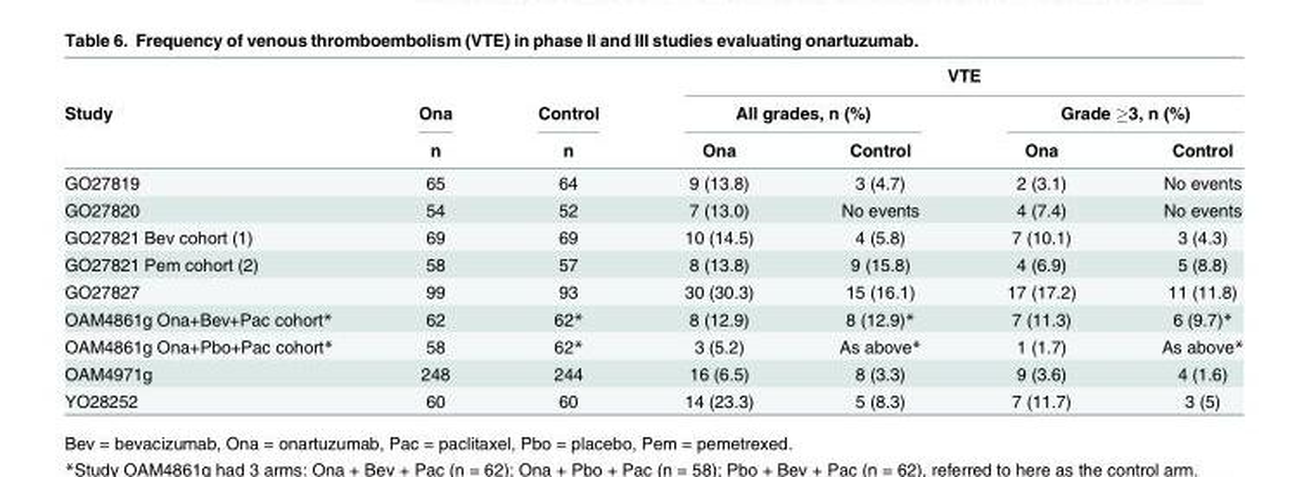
<table><thead><tr><td rowspan="3">Study</td><td rowspan="3">Ona n</td><td rowspan="3">Control n</td><td colspan="4">VTE</td></tr><tr><td colspan="2">All grades, n (%)</td><td colspan="2">Grade ≥3, n (%)</td></tr><tr><td>Ona</td><td>Control</td><td>Ona</td><td>Control</td></tr></thead><tbody><tr><td>GO27819</td><td>65</td><td>64</td><td>9 (13.8)</td><td>3 (4.7)</td><td>2 (3.1)</td><td>No events</td></tr><tr><td>GO27820</td><td>54</td><td>52</td><td>7 (13.0)</td><td>No events</td><td>4 (7.4)</td><td>No events</td></tr><tr><td>GO27821 Bev cohort (1)</td><td>69</td><td>69</td><td>10 (14.5)</td><td>4 (5.8)</td><td>7 (10.1)</td><td>3 (4.3)</td></tr><tr><td>GO27821 Pem cohort (2)</td><td>58</td><td>57</td><td>8 (13.8)</td><td>9 (15.8)</td><td>4 (6.9)</td><td>5 (8.8)</td></tr><tr><td>GO27827</td><td>99</td><td>93</td><td>30 (30.3)</td><td>15 (16.1)</td><td>17 (17.2)</td><td>11 (11.8)</td></tr><tr><td>OAM4861g Ona+Bev+Pac cohort*</td><td>62</td><td>62*</td><td>8 (12.9)</td><td>8 (12.9)*</td><td>7 (11.3)</td><td>6 (9.7)*</td></tr><tr><td>OAM4861g Ona+Pbo+Pac cohort*</td><td>58</td><td>62*</td><td>3 (5.2)</td><td>As above*</td><td>1 (1.7)</td><td>As above*</td></tr><tr><td>OAM4971g</td><td>248</td><td>244</td><td>16 (6.5)</td><td>8 (3.3)</td><td>9 (3.6)</td><td>4 (1.6)</td></tr><tr><td>YO28252</td><td>60</td><td>60</td><td>14 (23.3)</td><td>5 (8.3)</td><td>7 (11.7)</td><td>3 (5)</td></tr></tbody></table>